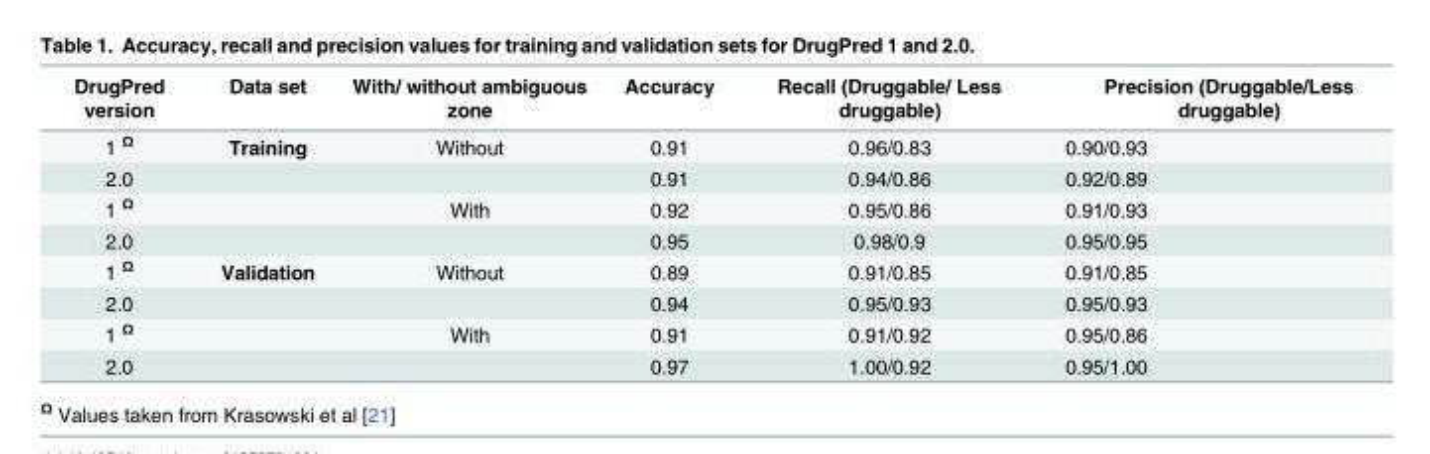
<table><thead><tr><td>DrugPred version</td><td>Data set</td><td>With/ without ambiguous zone</td><td>Accuracy</td><td>Recall (Druggable/ Less druggable)</td><td>Precision (Druggable/Less druggable)</td></tr></thead><tbody><tr><td>1 <sup>Ω</sup></td><td>Training</td><td>Without</td><td>0.91</td><td>0.96/0.83</td><td>0.90/0.93</td></tr><tr><td>2.0</td><td></td><td></td><td>0.91</td><td>0.94/0.86</td><td>0.92/0.89</td></tr><tr><td>1 <sup>Ω</sup></td><td></td><td>With</td><td>0.92</td><td>0.95/0.86</td><td>0.91/0.93</td></tr><tr><td>2.0</td><td></td><td></td><td>0.95</td><td>0.98/0.9</td><td>0.95/0.95</td></tr><tr><td>1 <sup>Ω</sup></td><td>Validation</td><td>Without</td><td>0.89</td><td>0.91/0.85</td><td>0.91/0.85</td></tr><tr><td>2.0</td><td></td><td></td><td>0.94</td><td>0.95/0.93</td><td>0.95/0.93</td></tr><tr><td>1 <sup>Ω</sup></td><td></td><td>With</td><td>0.91</td><td>0.91/0.92</td><td>0.95/0.86</td></tr><tr><td>2.0</td><td></td><td></td><td>0.97</td><td>1.00/0.92</td><td>0.95/1.00</td></tr></tbody></table>